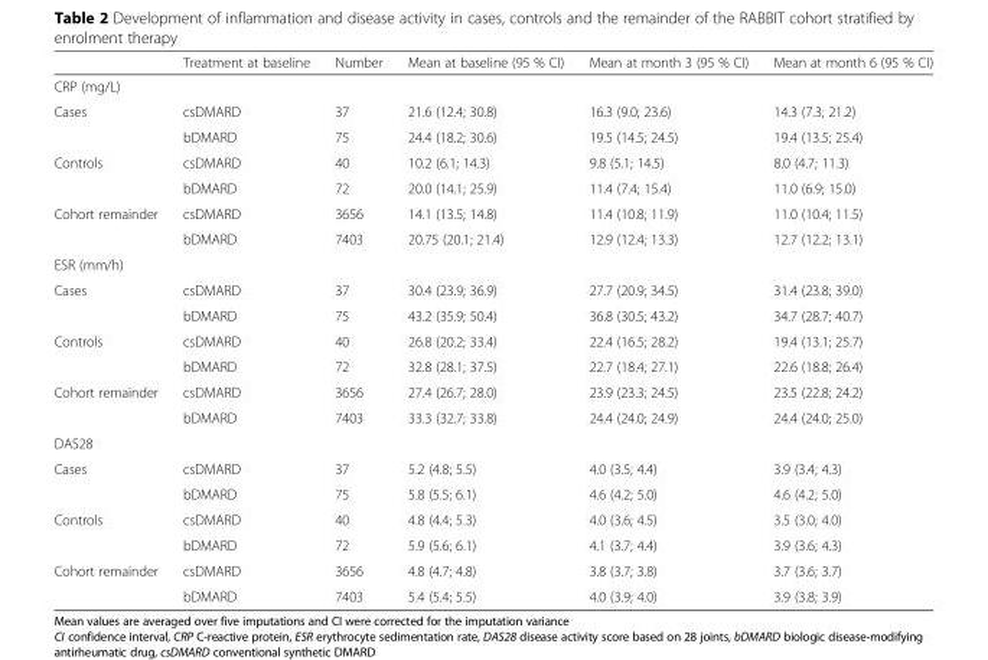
<table><thead><tr><td></td><td>Treatment at baseline</td><td>Number</td><td>Mean at baseline (95 % CI)</td><td>Mean at month 3 (95 % CI)</td><td>Mean at month 6 (95 % CI)</td></tr></thead><tbody><tr><td colspan="6">CRP (mg/L)</td></tr><tr><td rowspan="2">Cases</td><td>csDMARD</td><td>37</td><td>21.6 (12.4; 30.8)</td><td>16.3 (9.0; 23.6)</td><td>14.3 (7.3; 21.2)</td></tr><tr><td>bDMARD</td><td>75</td><td>24.4 (18.2; 30.6)</td><td>19.5 (14.5; 24.5)</td><td>19.4 (13.5; 25.4)</td></tr><tr><td rowspan="2">Controls</td><td>csDMARD</td><td>40</td><td>10.2 (6.1; 14.3)</td><td>9.8 (5.1; 14.5)</td><td>8.0 (4.7; 11.3)</td></tr><tr><td>bDMARD</td><td>72</td><td>20.0 (14.1; 25.9)</td><td>11.4 (7.4; 15.4)</td><td>11.0 (6.9; 15.0)</td></tr><tr><td rowspan="2">Cohort remainder</td><td>csDMARD</td><td>3656</td><td>14.1 (13.5; 14.8)</td><td>11.4 (10.8; 11.9)</td><td>11.0 (10.4; 11.5)</td></tr><tr><td>bDMARD</td><td>7403</td><td>20.75 (20.1; 21.4)</td><td>12.9 (12.4; 13.3)</td><td>12.7 (12.2; 13.1)</td></tr><tr><td colspan="6">ESR (mm/h)</td></tr><tr><td rowspan="2">Cases</td><td>csDMARD</td><td>37</td><td>30.4 (23.9; 36.9)</td><td>27.7 (20.9; 34.5)</td><td>31.4 (23.8; 39.0)</td></tr><tr><td>bDMARD</td><td>75</td><td>43.2 (35.9; 50.4)</td><td>36.8 (30.5; 43.2)</td><td>34.7 (28.7; 40.7)</td></tr><tr><td rowspan="2">Controls</td><td>csDMARD</td><td>40</td><td>26.8 (20.2; 33.4)</td><td>22.4 (16.5; 28.2)</td><td>19.4 (13.1; 25.7)</td></tr><tr><td>bDMARD</td><td>72</td><td>32.8 (28.1; 37.5)</td><td>22.7 (18.4; 27.1)</td><td>22.6 (18.8; 26.4)</td></tr><tr><td rowspan="2">Cohort remainder</td><td>csDMARD</td><td>3656</td><td>27.4 (26.7; 28.0)</td><td>23.9 (23.3; 24.5)</td><td>23.5 (22.8; 24.2)</td></tr><tr><td>bDMARD</td><td>7403</td><td>33.3 (32.7; 33.8)</td><td>24.4 (24.0; 24.9)</td><td>24.4 (24.0; 25.0)</td></tr><tr><td colspan="6">DAS28</td></tr><tr><td rowspan="2">Cases</td><td>csDMARD</td><td>37</td><td>5.2 (4.8; 5.5)</td><td>4.0 (3.5; 4.4)</td><td>3.9 (3.4; 4.3)</td></tr><tr><td>bDMARD</td><td>75</td><td>5.8 (5.5; 6.1)</td><td>4.6 (4.2; 5.0)</td><td>4.6 (4.2; 5.0)</td></tr><tr><td rowspan="2">Controls</td><td>csDMARD</td><td>40</td><td>4.8 (4.4; 5.3)</td><td>4.0 (3.6; 4.5)</td><td>3.5 (3.0; 4.0)</td></tr><tr><td>bDMARD</td><td>72</td><td>5.9 (5.6; 6.1)</td><td>4.1 (3.7; 4.4)</td><td>3.9 (3.6; 4.3)</td></tr><tr><td rowspan="2">Cohort remainder</td><td>csDMARD</td><td>3656</td><td>4.8 (4.7; 4.8)</td><td>3.8 (3.7; 3.8)</td><td>3.7 (3.6; 3.7)</td></tr><tr><td>bDMARD</td><td>7403</td><td>5.4 (5.4; 5.5)</td><td>4.0 (3.9; 4.0)</td><td>3.9 (3.8; 3.9)</td></tr></tbody></table>